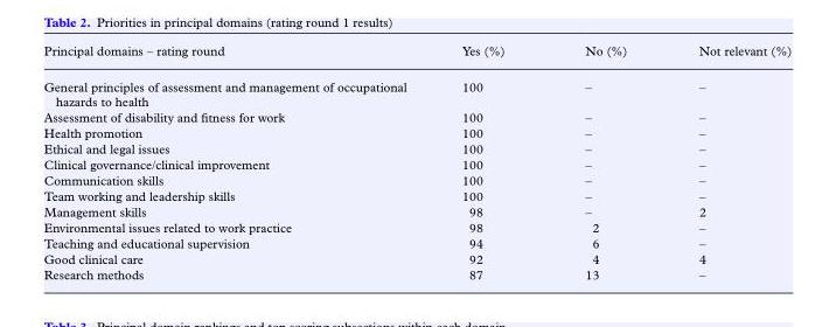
<table><thead><tr><td>Principal domains – rating round</td><td>Yes (%)</td><td>No (%)</td><td>Not relevant (%)</td></tr></thead><tbody><tr><td>General principles of assessment and management of occupational hazards to health</td><td>100</td><td>–</td><td>–</td></tr><tr><td>Assessment of disability and fitness for work</td><td>100</td><td>–</td><td>–</td></tr><tr><td>Health promotion</td><td>100</td><td>–</td><td>–</td></tr><tr><td>Ethical and legal issues</td><td>100</td><td>–</td><td>–</td></tr><tr><td>Clinical governance/clinical improvement</td><td>100</td><td>–</td><td>–</td></tr><tr><td>Communication skills</td><td>100</td><td>–</td><td>–</td></tr><tr><td>Team working and leadership skills</td><td>100</td><td>–</td><td>–</td></tr><tr><td>Management skills</td><td>98</td><td>–</td><td>2</td></tr><tr><td>Environmental issues related to work practice</td><td>98</td><td>2</td><td>–</td></tr><tr><td>Teaching and educational supervision</td><td>94</td><td>6</td><td>–</td></tr><tr><td>Good clinical care</td><td>92</td><td>4</td><td>4</td></tr><tr><td>Research methods</td><td>87</td><td>13</td><td>–</td></tr></tbody></table>